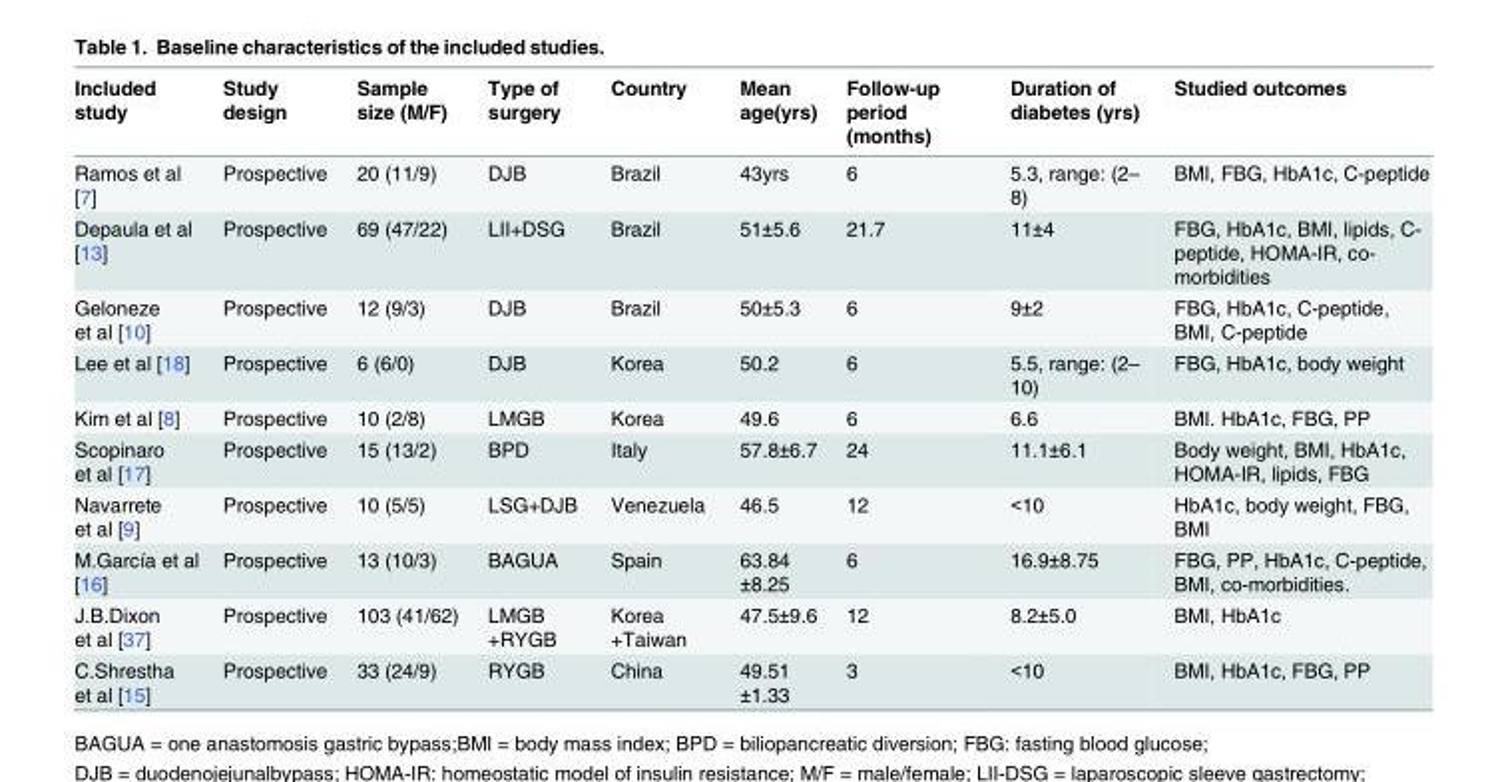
<table><thead><tr><td>Included study</td><td>Study design</td><td>Sample size (M/F)</td><td>Type of surgery</td><td>Country</td><td>Mean age(yrs)</td><td>Follow-up period (months)</td><td>Duration of diabetes (yrs)</td><td>Studied outcomes</td></tr></thead><tbody><tr><td>Ramos et al [7]</td><td>Prospective</td><td>20 (11/9)</td><td>DJB</td><td>Brazil</td><td>43yrs</td><td>6</td><td>5.3, range: (2– 8)</td><td>BMI, FBG, HbA1c, C-peptide</td></tr><tr><td>Depaula et al [13]</td><td>Prospective</td><td>69 (47/22)</td><td>LII+DSG</td><td>Brazil</td><td>51±5.6</td><td>21.7</td><td>11±4</td><td>FBG, HbA1c, BMI, lipids, C- peptide, HOMA-IR, co- morbidities</td></tr><tr><td>Geloneze et al [10]</td><td>Prospective</td><td>12 (9/3)</td><td>DJB</td><td>Brazil</td><td>50±5.3</td><td>6</td><td>9±2</td><td>FBG, HbA1c, C-peptide, BMI, C-peptide</td></tr><tr><td>Lee et al [18]</td><td>Prospective</td><td>6 (6/0)</td><td>DJB</td><td>Korea</td><td>50.2</td><td>6</td><td>5.5, range: (2– 10)</td><td>FBG, HbA1c, body weight</td></tr><tr><td>Kim et al [8]</td><td>Prospective</td><td>10 (2/8)</td><td>LMGB</td><td>Korea</td><td>49.6</td><td>6</td><td>6.6</td><td>BMI. HbA1c, FBG, PP</td></tr><tr><td>Scopinaro et al [17]</td><td>Prospective</td><td>15 (13/2)</td><td>BPD</td><td>Italy</td><td>57.8±6.7</td><td>24</td><td>11.1±6.1</td><td>Body weight, BMI, HbA1c, HOMA-IR, lipids, FBG</td></tr><tr><td>Navarrete et al [9]</td><td>Prospective</td><td>10 (5/5)</td><td>LSG+DJB</td><td>Venezuela</td><td>46.5</td><td>12</td><td>&lt;10</td><td>HbA1c, body weight, FBG, BMI</td></tr><tr><td>M.García et al [16]</td><td>Prospective</td><td>13 (10/3)</td><td>BAGUA</td><td>Spain</td><td>63.84 ±8.25</td><td>6</td><td>16.9±8.75</td><td>FBG, PP, HbA1c, C-peptide, BMI, co-morbidities.</td></tr><tr><td>J.B.Dixon et al [37]</td><td>Prospective</td><td>103 (41/62)</td><td>LMGB +RYGB</td><td>Korea +Taiwan</td><td>47.5±9.6</td><td>12</td><td>8.2±5.0</td><td>BMI, HbA1c</td></tr><tr><td>C.Shrestha et al [15]</td><td>Prospective</td><td>33 (24/9)</td><td>RYGB</td><td>China</td><td>49.51 ±1.33</td><td>3</td><td>&lt;10</td><td>BMI, HbA1c, FBG, PP</td></tr></tbody></table>